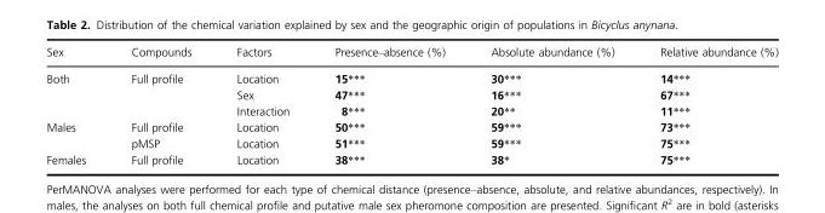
<table><thead><tr><td>Sex</td><td>Compounds</td><td>Factors</td><td>Presence–absence (%)</td><td>Absolute abundance (%)</td><td>Relative abundance (%)</td></tr></thead><tbody><tr><td rowspan="3">Both</td><td rowspan="3">Full profile</td><td>Location</td><td>15***</td><td>30***</td><td>14***</td></tr><tr><td>Sex</td><td>47***</td><td>16***</td><td>67***</td></tr><tr><td>Interaction</td><td>8***</td><td>20**</td><td>11***</td></tr><tr><td rowspan="2">Males</td><td>Full profile</td><td>Location</td><td>50***</td><td>59***</td><td>73***</td></tr><tr><td>pMSP</td><td>Location</td><td>51***</td><td>59***</td><td>75***</td></tr><tr><td>Females</td><td>Full profile</td><td>Location</td><td>38***</td><td>38*</td><td>75***</td></tr></tbody></table>